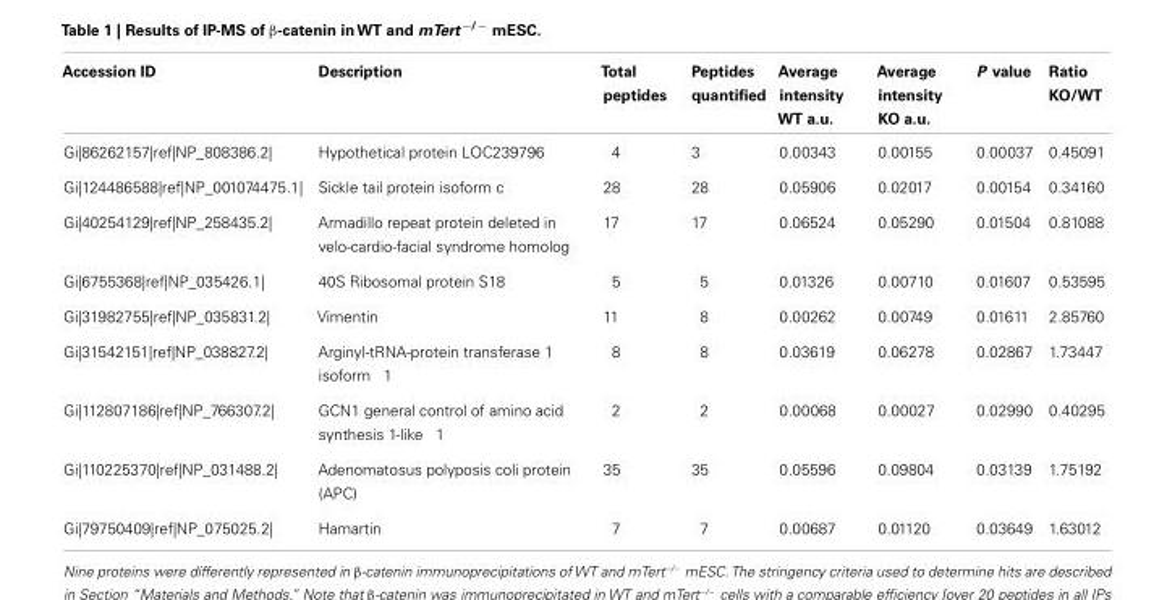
<table><thead><tr><td>Accession ID</td><td>Description</td><td>Total peptides</td><td>Peptides quantified</td><td>Average intensity WT a.u.</td><td>Average intensity KO a.u.</td><td>P value</td><td>Ratio KO/WT</td></tr></thead><tbody><tr><td>Gi|86262157|ref|NP_808386.2|</td><td>Hypothetical protein LOC239796</td><td>4</td><td>3</td><td>0.00343</td><td>0.00155</td><td>0.00037</td><td>0.45091</td></tr><tr><td>Gi|124486588|ref|NP_001074475.1|</td><td>Sickle tail protein isoform c</td><td>28</td><td>28</td><td>0.05906</td><td>0.02017</td><td>0.00154</td><td>0.34160</td></tr><tr><td>Gi|40254129|ref|NP_258435.2|</td><td>Armadillo repeat protein deleted in velo-cardio-facial syndrome homolog</td><td>17</td><td>17</td><td>0.06524</td><td>0.05290</td><td>0.01504</td><td>0.81088</td></tr><tr><td>Gi|6755368|ref|NP_035426.1|</td><td>40S Ribosomal protein S18</td><td>5</td><td>5</td><td>0.01326</td><td>0.00710</td><td>0.01607</td><td>0.53595</td></tr><tr><td>Gi|31982755|ref|NP_035831.2|</td><td>Vimentin</td><td>11</td><td>8</td><td>0.00262</td><td>0.00749</td><td>0.01611</td><td>2.85760</td></tr><tr><td>Gi|31542151|ref|NP_038827.2|</td><td>Arginyl-tRNA-protein transferase 1 isoform 1</td><td>8</td><td>8</td><td>0.03619</td><td>0.06278</td><td>0.02867</td><td>1.73447</td></tr><tr><td>Gi|112807186|ref|NP_766307.2|</td><td>GCN1 general control of amino acid synthesis 1-like 1</td><td>2</td><td>2</td><td>0.00068</td><td>0.00027</td><td>0.02990</td><td>0.40295</td></tr><tr><td>Gi|110225370|ref|NP_031488.2|</td><td>Adenomatosus polyposis coli protein (APC)</td><td>35</td><td>35</td><td>0.05596</td><td>0.09804</td><td>0.03139</td><td>1.75192</td></tr><tr><td>Gi|79750409|ref|NP_075025.2|</td><td>Hamartin</td><td>7</td><td>7</td><td>0.00687</td><td>0.01120</td><td>0.03649</td><td>1.63012</td></tr></tbody></table>